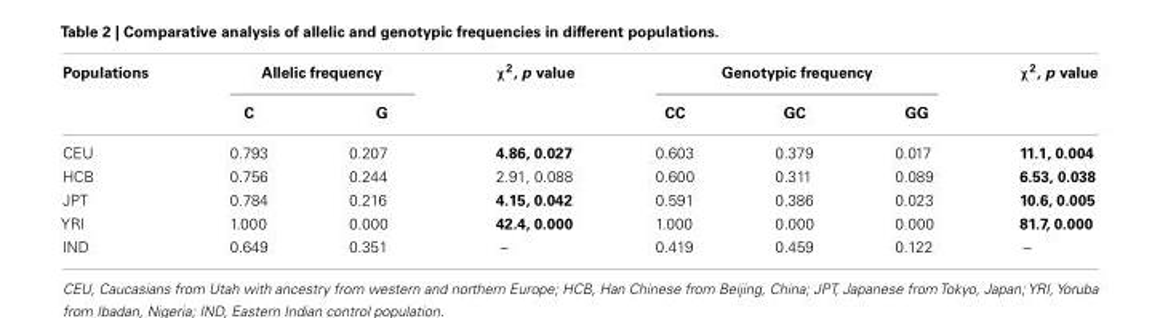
<table><thead><tr><td rowspan="2">Populations</td><td colspan="2">Allelic frequency</td><td rowspan="2">χ<sup>2</sup>, p value</td><td colspan="3">Genotypic frequency</td><td rowspan="2">χ<sup>2</sup>, p value</td></tr><tr><td>C</td><td>G</td><td>CC</td><td>GC</td><td>GG</td></tr></thead><tbody><tr><td>CEU</td><td>0.793</td><td>0.207</td><td>4.86, 0.027</td><td>0.603</td><td>0.379</td><td>0.017</td><td>11.1, 0.004</td></tr><tr><td>HCB</td><td>0.756</td><td>0.244</td><td>2.91, 0.088</td><td>0.600</td><td>0.311</td><td>0.089</td><td>6.53, 0.038</td></tr><tr><td>JPT</td><td>0.784</td><td>0.216</td><td>4.15, 0.042</td><td>0.591</td><td>0.386</td><td>0.023</td><td>10.6, 0.005</td></tr><tr><td>YRI</td><td>1.000</td><td>0.000</td><td>42.4, 0.000</td><td>1.000</td><td>0.000</td><td>0.000</td><td>81.7, 0.000</td></tr><tr><td>IND</td><td>0.649</td><td>0.351</td><td>–</td><td>0.419</td><td>0.459</td><td>0.122</td><td>–</td></tr></tbody></table>